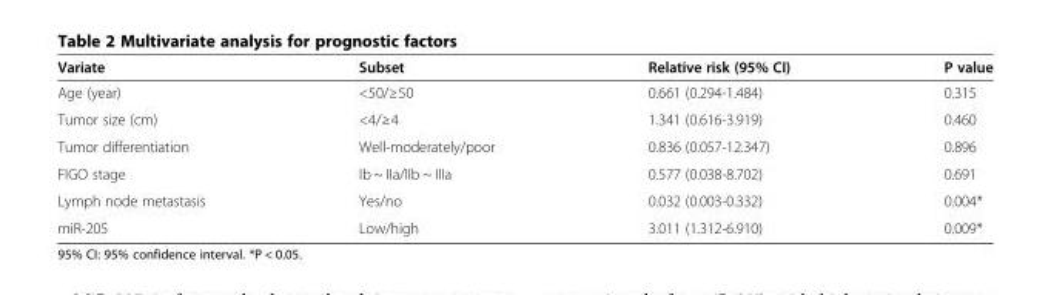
<table><thead><tr><td>Variate</td><td>Subset</td><td>Relative risk (95% CI)</td><td>P value</td></tr></thead><tbody><tr><td>Age (year)</td><td>&lt;50/≥50</td><td>0.661 (0.294-1.484)</td><td>0.315</td></tr><tr><td>Tumor size (cm)</td><td>&lt;4/≥4</td><td>1.341 (0.616-3.919)</td><td>0.460</td></tr><tr><td>Tumor differentiation</td><td>Well-moderately/poor</td><td>0.836 (0.057-12.347)</td><td>0.896</td></tr><tr><td>FIGO stage</td><td>Ib ~ IIa/IIb ~ IIIa</td><td>0.577 (0.038-8.702)</td><td>0.691</td></tr><tr><td>Lymph node metastasis</td><td>Yes/no</td><td>0.032 (0.003-0.332)</td><td>0.004*</td></tr><tr><td>miR-205</td><td>Low/high</td><td>3.011 (1.312-6.910)</td><td>0.009*</td></tr></tbody></table>